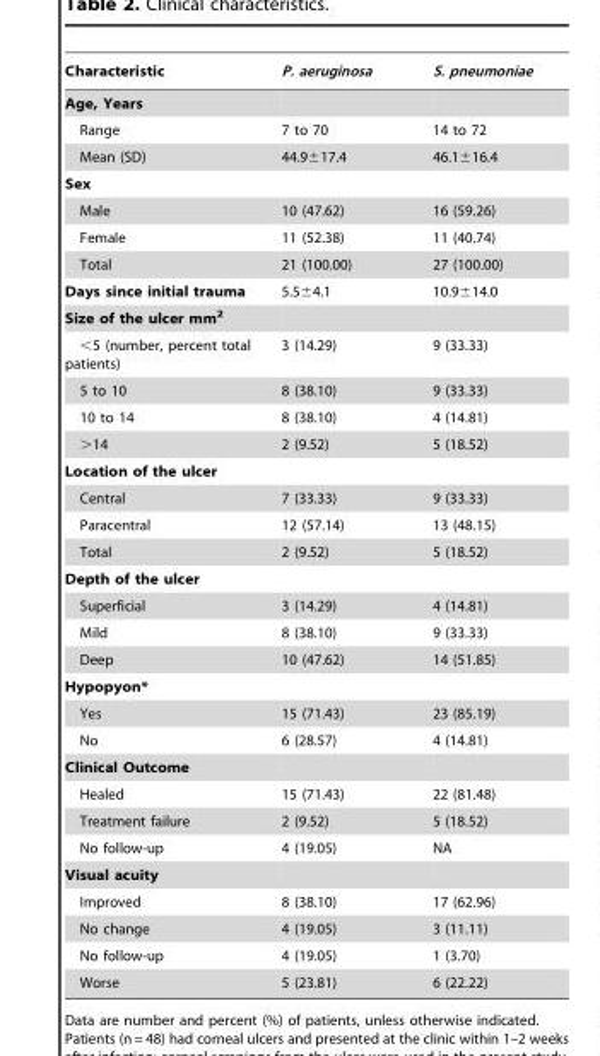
<table><thead><tr><td>Characteristic</td><td>P. aeruginosa</td><td>S. pneumoniae</td></tr></thead><tbody><tr><td colspan="3">Age, Years</td></tr><tr><td>Range</td><td>7 to 70</td><td>14 to 72</td></tr><tr><td>Mean (SD)</td><td>44.9±17.4</td><td>46.1±16.4</td></tr><tr><td colspan="3">Sex</td></tr><tr><td>Male</td><td>10 (47.62)</td><td>16 (59.26)</td></tr><tr><td>Female</td><td>11 (52.38)</td><td>11 (40.74)</td></tr><tr><td>Total</td><td>21 (100.00)</td><td>27 (100.00)</td></tr><tr><td>Days since initial trauma</td><td>5.5±4.1</td><td>10.9±14.0</td></tr><tr><td colspan="3">Size of the ulcer mm<sup>2</sup></td></tr><tr><td>&lt;5 (number, percent total patients)</td><td>3 (14.29)</td><td>9 (33.33)</td></tr><tr><td>5 to 10</td><td>8 (38.10)</td><td>9 (33.33)</td></tr><tr><td>10 to 14</td><td>8 (38.10)</td><td>4 (14.81)</td></tr><tr><td>&gt;14</td><td>2 (9.52)</td><td>5 (18.52)</td></tr><tr><td colspan="3">Location of the ulcer</td></tr><tr><td>Central</td><td>7 (33.33)</td><td>9 (33.33)</td></tr><tr><td>Paracentral</td><td>12 (57.14)</td><td>13 (48.15)</td></tr><tr><td>Total</td><td>2 (9.52)</td><td>5 (18.52)</td></tr><tr><td colspan="3">Depth of the ulcer</td></tr><tr><td>Superficial</td><td>3 (14.29)</td><td>4 (14.81)</td></tr><tr><td>Mild</td><td>8 (38.10)</td><td>9 (33.33)</td></tr><tr><td>Deep</td><td>10 (47.62)</td><td>14 (51.85)</td></tr><tr><td colspan="3">Hypopyon*</td></tr><tr><td>Yes</td><td>15 (71.43)</td><td>23 (85.19)</td></tr><tr><td>No</td><td>6 (28.57)</td><td>4 (14.81)</td></tr><tr><td colspan="3">Clinical Outcome</td></tr><tr><td>Healed</td><td>15 (71.43)</td><td>22 (81.48)</td></tr><tr><td>Treatment failure</td><td>2 (9.52)</td><td>5 (18.52)</td></tr><tr><td>No follow-up</td><td>4 (19.05)</td><td>NA</td></tr><tr><td colspan="3">Visual acuity</td></tr><tr><td>Improved</td><td>8 (38.10)</td><td>17 (62.96)</td></tr><tr><td>No change</td><td>4 (19.05)</td><td>3 (11.11)</td></tr><tr><td>No follow-up</td><td>4 (19.05)</td><td>1 (3.70)</td></tr><tr><td>Worse</td><td>5 (23.81)</td><td>6 (22.22)</td></tr></tbody></table>